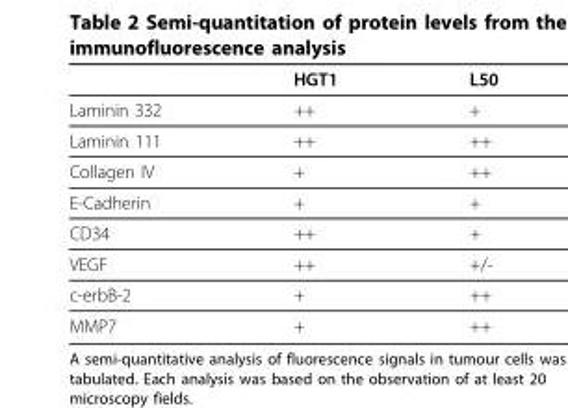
<table><thead><tr><td></td><td>HGT1</td><td>L50</td></tr></thead><tbody><tr><td>Laminin 332</td><td>++</td><td>+</td></tr><tr><td>Laminin 111</td><td>++</td><td>++</td></tr><tr><td>Collagen IV</td><td>+</td><td>++</td></tr><tr><td>E-Cadherin</td><td>+</td><td>+</td></tr><tr><td>CD34</td><td>++</td><td>+</td></tr><tr><td>VEGF</td><td>++</td><td>+/-</td></tr><tr><td>c-erbB-2</td><td>+</td><td>++</td></tr><tr><td>MMP7</td><td>+</td><td>++</td></tr></tbody></table>